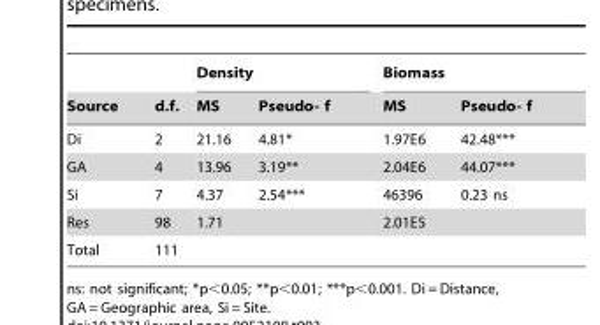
<table><thead><tr><td rowspan="2">Source</td><td rowspan="2">d.f.</td><td colspan="2">Density</td><td colspan="2">Biomass</td></tr><tr><td>MS</td><td>Pseudo- f</td><td>MS</td><td>Pseudo- f</td></tr></thead><tbody><tr><td>Di</td><td>2</td><td>21.16</td><td>4.81*</td><td>1.97E6</td><td>42.48***</td></tr><tr><td>GA</td><td>4</td><td>13.96</td><td>3.19**</td><td>2.04E6</td><td>44.07***</td></tr><tr><td>Si</td><td>7</td><td>4.37</td><td>2.54***</td><td>46396</td><td>0.23 ns</td></tr><tr><td>Res</td><td>98</td><td>1.71</td><td></td><td>2.01E5</td><td></td></tr><tr><td>Total</td><td>111</td><td></td><td></td><td></td><td></td></tr></tbody></table>